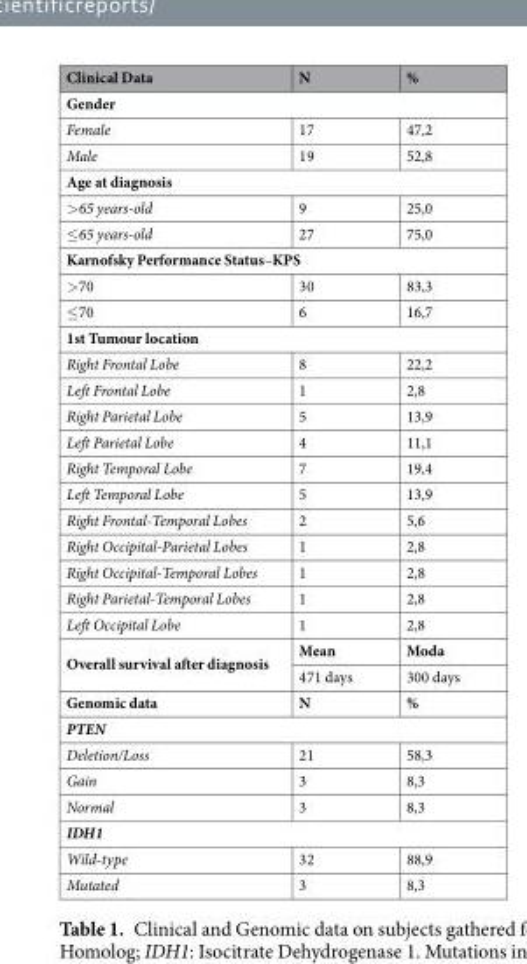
<table><thead><tr><td>Clinical Data</td><td>N</td><td>%</td></tr></thead><tbody><tr><td colspan="3">Gender</td></tr><tr><td>Female</td><td>17</td><td>47,2</td></tr><tr><td>Male</td><td>19</td><td>52,8</td></tr><tr><td colspan="3">Age at diagnosis</td></tr><tr><td>&gt;65 years-old</td><td>9</td><td>25,0</td></tr><tr><td>≤65 years-old</td><td>27</td><td>75,0</td></tr><tr><td colspan="3">Karnofsky Performance Status–KPS</td></tr><tr><td>&gt;70</td><td>30</td><td>83,3</td></tr><tr><td>≤70</td><td>6</td><td>16,7</td></tr><tr><td colspan="3">1st Tumour location</td></tr><tr><td>Right Frontal Lobe</td><td>8</td><td>22,2</td></tr><tr><td>Left Frontal Lobe</td><td>1</td><td>2,8</td></tr><tr><td>Right Parietal Lobe</td><td>5</td><td>13,9</td></tr><tr><td>Left Parietal Lobe</td><td>4</td><td>11,1</td></tr><tr><td>Right Temporal Lobe</td><td>7</td><td>19,4</td></tr><tr><td>Left Temporal Lobe</td><td>5</td><td>13,9</td></tr><tr><td>Right Frontal-Temporal Lobes</td><td>2</td><td>5,6</td></tr><tr><td>Right Occipital-Parietal Lobes</td><td>1</td><td>2,8</td></tr><tr><td>Right Occipital-Temporal Lobes</td><td>1</td><td>2,8</td></tr><tr><td>Right Parietal-Temporal Lobes</td><td>1</td><td>2,8</td></tr><tr><td>Left Occipital Lobe</td><td>1</td><td>2,8</td></tr><tr><td rowspan="2">Overall survival after diagnosis</td><td>Mean</td><td>Moda</td></tr><tr><td>471 days</td><td>300 days</td></tr><tr><td>Genomic data</td><td>N</td><td>%</td></tr><tr><td colspan="3">PTEN</td></tr><tr><td>Deletion/Loss</td><td>21</td><td>58,3</td></tr><tr><td>Gain</td><td>3</td><td>8,3</td></tr><tr><td>Normal</td><td>3</td><td>8,3</td></tr><tr><td colspan="3">IDH1</td></tr><tr><td>Wild-type</td><td>32</td><td>88,9</td></tr><tr><td>Mutated</td><td>3</td><td>8,3</td></tr></tbody></table>